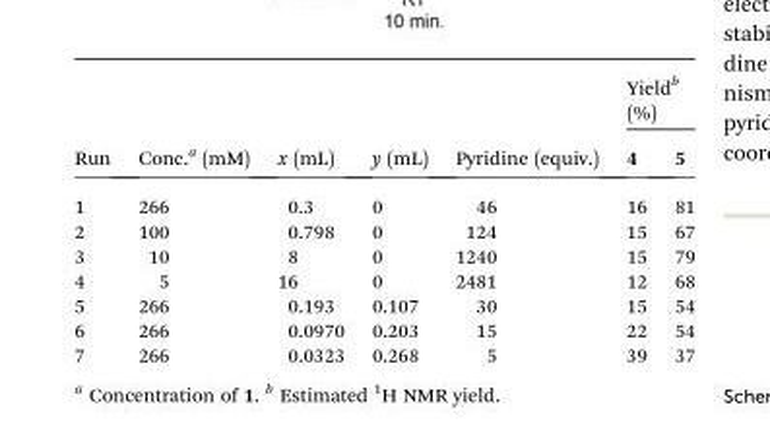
<table><thead><tr><td rowspan="2">Run</td><td rowspan="2">Conc.<sup>a</sup> (mM)</td><td rowspan="2">x (mL)</td><td rowspan="2">y (mL)</td><td rowspan="2">Pyridine (equiv.)</td><td colspan="2">Yield<sup>b</sup> (%)</td></tr><tr><td>4</td><td>5</td></tr></thead><tbody><tr><td>1</td><td>266</td><td>0.3</td><td>0</td><td>46</td><td>16</td><td>81</td></tr><tr><td>2</td><td>100</td><td>0.798</td><td>0</td><td>124</td><td>15</td><td>67</td></tr><tr><td>3</td><td>10</td><td>8</td><td>0</td><td>1240</td><td>15</td><td>79</td></tr><tr><td>4</td><td>5</td><td>16</td><td>0</td><td>2481</td><td>12</td><td>68</td></tr><tr><td>5</td><td>266</td><td>0.193</td><td>0.107</td><td>30</td><td>15</td><td>54</td></tr><tr><td>6</td><td>266</td><td>0.0970</td><td>0.203</td><td>15</td><td>22</td><td>54</td></tr><tr><td>7</td><td>266</td><td>0.0323</td><td>0.268</td><td>5</td><td>39</td><td>37</td></tr></tbody></table>